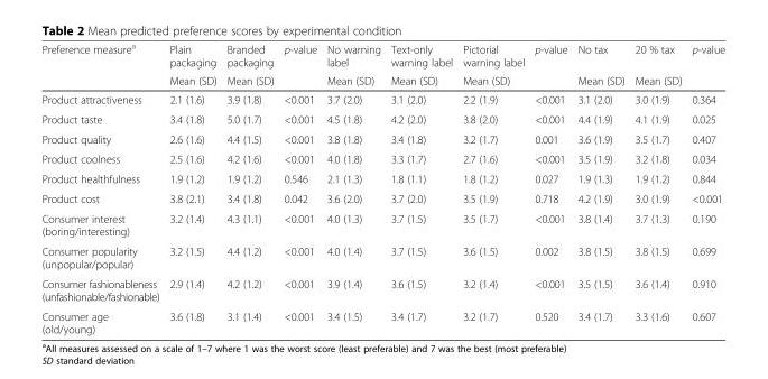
<table><thead><tr><td rowspan="2">Preference measure<sup>a</sup></td><td rowspan="2">Plain packaging Mean (SD)</td><td rowspan="2">Branded packaging Mean (SD)</td><td rowspan="2">p-value</td><td rowspan="2">No warning label Mean (SD)</td><td rowspan="2">Text-only warning label Mean (SD)</td><td rowspan="2">Pictorial warning label Mean (SD)</td><td rowspan="2">p-value</td><td rowspan="2">No tax Mean (SD)</td><td rowspan="2">20 % tax Mean (SD)</td><td rowspan="2">p-value</td></tr><tr></tr></thead><tbody><tr><td>Product attractiveness</td><td>2.1 (1.6)</td><td>3.9 (1.8)</td><td>&lt;0.001</td><td>3.7 (2.0)</td><td>3.1 (2.0)</td><td>2.2 (1.9)</td><td>&lt;0.001</td><td>3.1 (2.0)</td><td>3.0 (1.9)</td><td>0.364</td></tr><tr><td>Product taste</td><td>3.4 (1.8)</td><td>5.0 (1.7)</td><td>&lt;0.001</td><td>4.5 (1.8)</td><td>4.2 (2.0)</td><td>3.8 (2.0)</td><td>&lt;0.001</td><td>4.4 (1.9)</td><td>4.1 (1.9)</td><td>0.025</td></tr><tr><td>Product quality</td><td>2.6 (1.6)</td><td>4.4 (1.5)</td><td>&lt;0.001</td><td>3.8 (1.8)</td><td>3.4 (1.8)</td><td>3.2 (1.7)</td><td>0.001</td><td>3.6 (1.9)</td><td>3.5 (1.7)</td><td>0.407</td></tr><tr><td>Product coolness</td><td>2.5 (1.6)</td><td>4.2 (1.6)</td><td>&lt;0.001</td><td>4.0 (1.8)</td><td>3.3 (1.7)</td><td>2.7 (1.6)</td><td>&lt;0.001</td><td>3.5 (1.9)</td><td>3.2 (1.8)</td><td>0.034</td></tr><tr><td>Product healthfulness</td><td>1.9 (1.2)</td><td>1.9 (1.2)</td><td>0.546</td><td>2.1 (1.3)</td><td>1.8 (1.1)</td><td>1.8 (1.2)</td><td>0.027</td><td>1.9 (1.3)</td><td>1.9 (1.2)</td><td>0.844</td></tr><tr><td>Product cost</td><td>3.8 (2.1)</td><td>3.4 (1.8)</td><td>0.042</td><td>3.6 (2.0)</td><td>3.7 (2.0)</td><td>3.5 (1.9)</td><td>0.718</td><td>4.2 (1.9)</td><td>3.0 (1.9)</td><td>&lt;0.001</td></tr><tr><td>Consumer interest (boring/interesting)</td><td>3.2 (1.4)</td><td>4.3 (1.1)</td><td>&lt;0.001</td><td>4.0 (1.3)</td><td>3.7 (1.5)</td><td>3.5 (1.7)</td><td>&lt;0.001</td><td>3.8 (1.4)</td><td>3.7 (1.3)</td><td>0.190</td></tr><tr><td>Consumer popularity (unpopular/popular)</td><td>3.2 (1.5)</td><td>4.4 (1.2)</td><td>&lt;0.001</td><td>4.0 (1.4)</td><td>3.7 (1.5)</td><td>3.6 (1.5)</td><td>0.002</td><td>3.8 (1.5)</td><td>3.8 (1.5)</td><td>0.699</td></tr><tr><td>Consumer fashionableness (unfashionable/fashionable)</td><td>2.9 (1.4)</td><td>4.2 (1.2)</td><td>&lt;0.001</td><td>3.9 (1.4)</td><td>3.6 (1.5)</td><td>3.2 (1.4)</td><td>&lt;0.001</td><td>3.5 (1.5)</td><td>3.6 (1.4)</td><td>0.910</td></tr><tr><td>Consumer age (old/young)</td><td>3.6 (1.8)</td><td>3.1 (1.4)</td><td>&lt;0.001</td><td>3.4 (1.5)</td><td>3.4 (1.7)</td><td>3.2 (1.7)</td><td>0.520</td><td>3.4 (1.7)</td><td>3.3 (1.6)</td><td>0.607</td></tr></tbody></table>